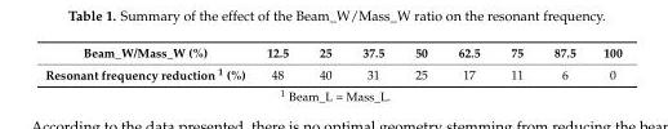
<table><thead><tr><td>Beam_W/Mass_W (%)</td><td>12.5</td><td>25</td><td>37.5</td><td>50</td><td>62.5</td><td>75</td><td>87.5</td><td>100</td></tr></thead><tbody><tr><td>Resonant frequency reduction <sup>1</sup> (%)</td><td>48</td><td>40</td><td>31</td><td>25</td><td>17</td><td>11</td><td>6</td><td>0</td></tr></tbody></table>